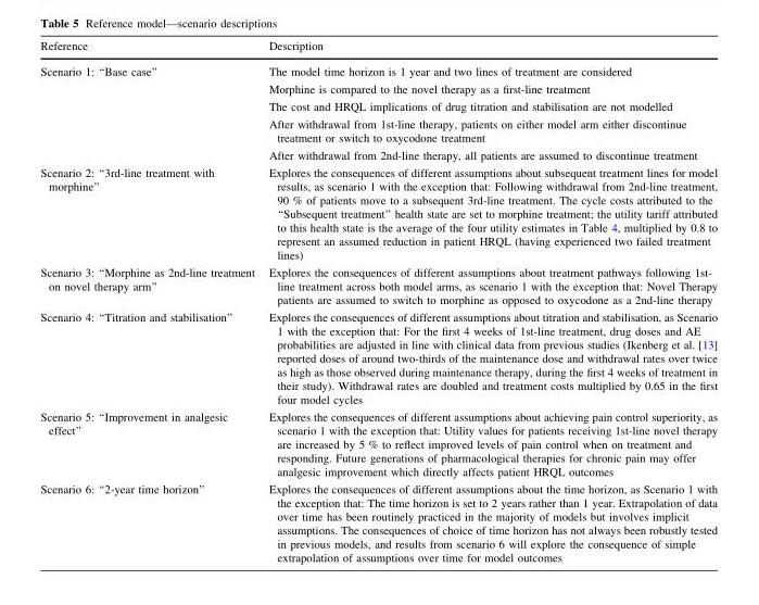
<table><thead><tr><td>Reference</td><td>Description</td></tr></thead><tbody><tr><td rowspan="5">Scenario 1: ‘‘Base case’’</td><td>The model time horizon is 1 year and two lines of treatment are considered</td></tr><tr><td>Morphine is compared to the novel therapy as a first-line treatment</td></tr><tr><td>The cost and HRQL implications of drug titration and stabilisation are not modelled</td></tr><tr><td>After withdrawal from 1st-line therapy, patients on either model arm either discontinue treatment or switch to oxycodone treatment</td></tr><tr><td>After withdrawal from 2nd-line therapy, all patients are assumed to discontinue treatment</td></tr><tr><td>Scenario 2: ‘‘3rd-line treatment with morphine’’</td><td>Explores the consequences of different assumptions about subsequent treatment lines for model results, as scenario 1 with the exception that: Following withdrawal from 2nd-line treatment, 90 % of patients move to a subsequent 3rd-line treatment. The cycle costs attributed to the ‘‘Subsequent treatment’’ health state are set to morphine treatment; the utility tariff attributed to this health state is the average of the four utility estimates in Table 4, multiplied by 0.8 to represent an assumed reduction in patient HRQL (having experienced two failed treatment lines)</td></tr><tr><td>Scenario 3: ‘‘Morphine as 2nd-line treatment on novel therapy arm’’</td><td>Explores the consequences of different assumptions about treatment pathways following 1st- line treatment across both model arms, as scenario 1 with the exception that: Novel Therapy patients are assumed to switch to morphine as opposed to oxycodone as a 2nd-line therapy</td></tr><tr><td>Scenario 4: ‘‘Titration and stabilisation’’</td><td>Explores the consequences of different assumptions about titration and stabilisation, as Scenario 1 with the exception that: For the first 4 weeks of 1st-line treatment, drug doses and AE probabilities are adjusted in line with clinical data from previous studies (Ikenberg et al. [13] reported doses of around two-thirds of the maintenance dose and withdrawal rates over twice as high as those observed during maintenance therapy, during the first 4 weeks of treatment in their study). Withdrawal rates are doubled and treatment costs multiplied by 0.65 in the first four model cycles</td></tr><tr><td>Scenario 5: ‘‘Improvement in analgesic effect’’</td><td>Explores the consequences of different assumptions about achieving pain control superiority, as scenario 1 with the exception that: Utility values for patients receiving 1st-line novel therapy are increased by 5 % to reflect improved levels of pain control when on treatment and responding. Future generations of pharmacological therapies for chronic pain may offer analgesic improvement which directly affects patient HRQL outcomes</td></tr><tr><td>Scenario 6: ‘‘2-year time horizon’’</td><td>Explores the consequences of different assumptions about the time horizon, as Scenario 1 with the exception that: The time horizon is set to 2 years rather than 1 year. Extrapolation of data over time has been routinely practiced in the majority of models but involves implicit assumptions. The consequences of choice of time horizon has not always been robustly tested in previous models, and results from scenario 6 will explore the consequence of simple extrapolation of assumptions over time for model outcomes</td></tr></tbody></table>